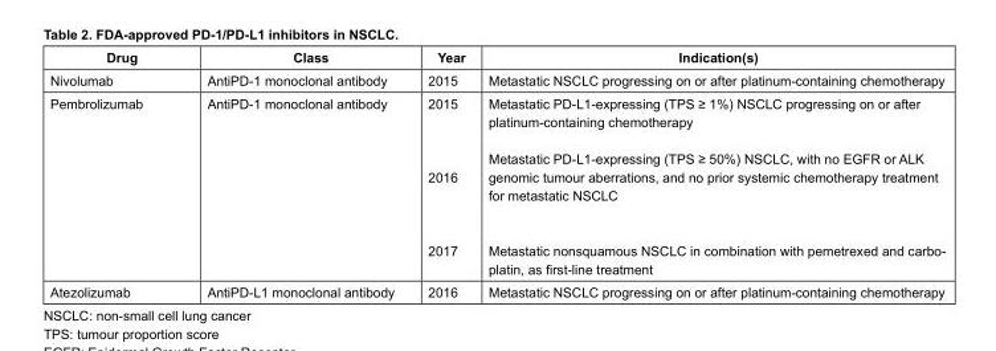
<table><thead><tr><td>Drug</td><td>Class</td><td>Year</td><td>Indication(s)</td></tr></thead><tbody><tr><td>Nivolumab</td><td>AntiPD-1 monoclonal antibody</td><td>2015</td><td>Metastatic NSCLC progressing on or after platinum-containing chemotherapy</td></tr><tr><td>Pembrolizumab</td><td>AntiPD-1 monoclonal antibody</td><td>2015 2016 2017</td><td>Metastatic PD-L1-expressing (TPS ≥ 1%) NSCLC progressing on or after platinum-containing chemotherapy Metastatic PD-L1-expressing (TPS ≥ 50%) NSCLC, with no EGFR or ALK genomic tumour aberrations, and no prior systemic chemotherapy treatment for metastatic NSCLC Metastatic nonsquamous NSCLC in combination with pemetrexed and carbo- platin, as first-line treatment</td></tr><tr><td>Atezolizumab</td><td>AntiPD-L1 monoclonal antibody</td><td>2016</td><td>Metastatic NSCLC progressing on or after platinum-containing chemotherapy</td></tr></tbody></table>